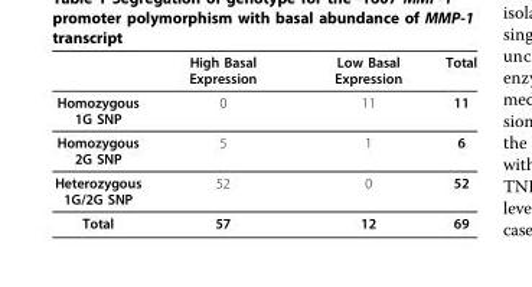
<table><thead><tr><td></td><td>High Basal Expression</td><td>Low Basal Expression</td><td>Total</td></tr></thead><tbody><tr><td>Homozygous 1G SNP</td><td>0</td><td>11</td><td>11</td></tr><tr><td>Homozygous 2G SNP</td><td>5</td><td>1</td><td>6</td></tr><tr><td>Heterozygous 1G/2G SNP</td><td>52</td><td>0</td><td>52</td></tr><tr><td>Total</td><td>57</td><td>12</td><td>69</td></tr></tbody></table>